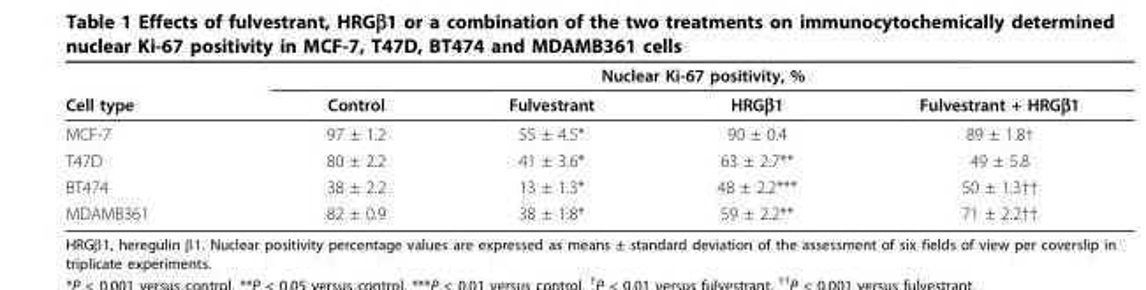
<table><thead><tr><td rowspan="2">Cell type</td><td colspan="4">Nuclear Ki-67 positivity, %</td></tr><tr><td>Control</td><td>Fulvestrant</td><td>HRGβ1</td><td>Fulvestrant + HRGβ1</td></tr></thead><tbody><tr><td>MCF-7</td><td>97 ± 1.2</td><td>55 ± 4.5*</td><td>90 ± 0.4</td><td>89 ± 1.8†</td></tr><tr><td>T47D</td><td>80 ± 2.2</td><td>41 ± 3.6*</td><td>63 ± 2.7**</td><td>49 ± 5.8</td></tr><tr><td>BT474</td><td>38 ± 2.2</td><td>13 ± 1.3*</td><td>48 ± 2.2***</td><td>50 ± 1.3††</td></tr><tr><td>MDAMB361</td><td>82 ± 0.9</td><td>38 ± 1.8*</td><td>59 ± 2.2**</td><td>71 ± 2.2††</td></tr></tbody></table>